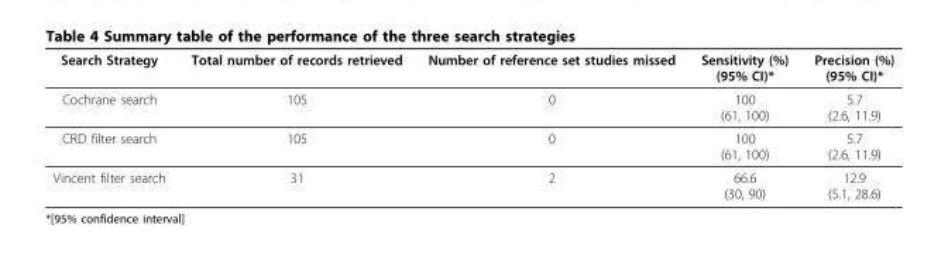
<table><thead><tr><td>Search Strategy</td><td>Total number of records retrieved</td><td>Number of reference set studies missed</td><td>Sensitivity (%) (95% CI)*</td><td>Precision (%) (95% CI)*</td></tr></thead><tbody><tr><td>Cochrane search</td><td>105</td><td>0</td><td>100 (61, 100)</td><td>5.7 (2.6, 11.9)</td></tr><tr><td>CRD filter search</td><td>105</td><td>0</td><td>100 (61, 100)</td><td>5.7 (2.6, 11.9)</td></tr><tr><td>Vincent filter search</td><td>31</td><td>2</td><td>66.6 (30, 90)</td><td>12.9 (5.1, 28.6)</td></tr></tbody></table>